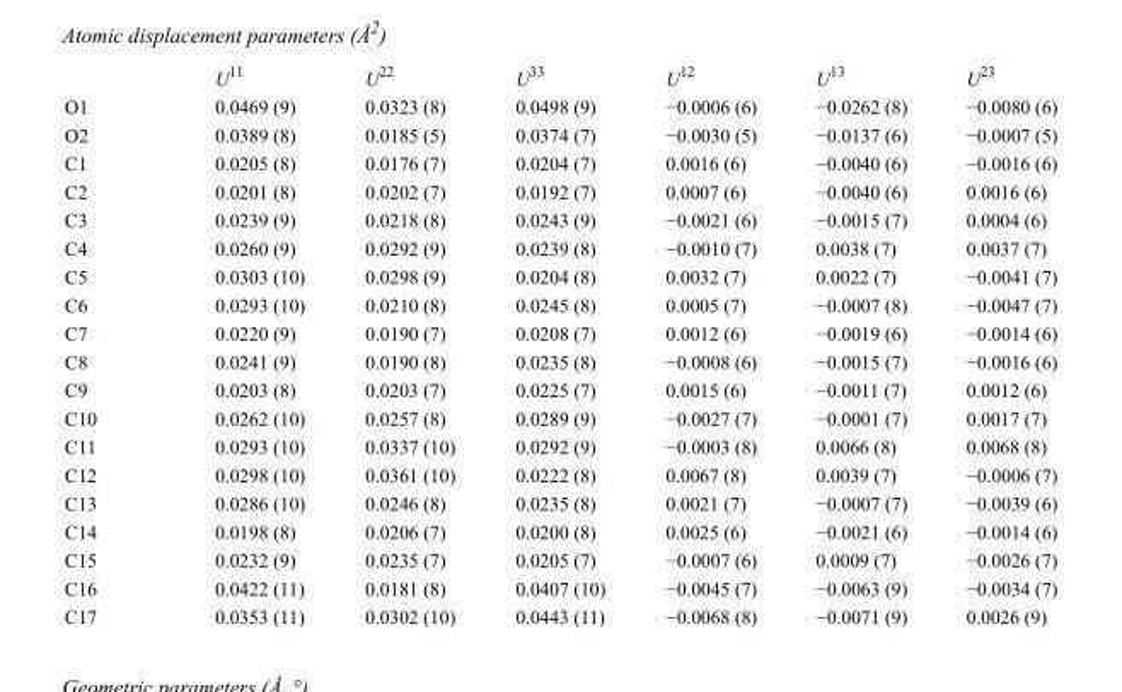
<table><thead><tr><td></td><td>U<sup>11</sup></td><td>U<sup>22</sup></td><td>U<sup>33</sup></td><td>U<sup>12</sup></td><td>U<sup>13</sup></td><td>U<sup>23</sup></td></tr></thead><tbody><tr><td>O1</td><td>0.0469 (9)</td><td>0.0323 (8)</td><td>0.0498 (9)</td><td>−0.0006 (6)</td><td>−0.0262 (8)</td><td>−0.0080 (6)</td></tr><tr><td>O2</td><td>0.0389 (8)</td><td>0.0185 (5)</td><td>0.0374 (7)</td><td>−0.0030 (5)</td><td>−0.0137 (6)</td><td>−0.0007 (5)</td></tr><tr><td>C1</td><td>0.0205 (8)</td><td>0.0176 (7)</td><td>0.0204 (7)</td><td>0.0016 (6)</td><td>−0.0040 (6)</td><td>−0.0016 (6)</td></tr><tr><td>C2</td><td>0.0201 (8)</td><td>0.0202 (7)</td><td>0.0192 (7)</td><td>0.0007 (6)</td><td>−0.0040 (6)</td><td>0.0016 (6)</td></tr><tr><td>C3</td><td>0.0239 (9)</td><td>0.0218 (8)</td><td>0.0243 (9)</td><td>−0.0021 (6)</td><td>−0.0015 (7)</td><td>0.0004 (6)</td></tr><tr><td>C4</td><td>0.0260 (9)</td><td>0.0292 (9)</td><td>0.0239 (8)</td><td>−0.0010 (7)</td><td>0.0038 (7)</td><td>0.0037 (7)</td></tr><tr><td>C5</td><td>0.0303 (10)</td><td>0.0298 (9)</td><td>0.0204 (8)</td><td>0.0032 (7)</td><td>0.0022 (7)</td><td>−0.0041 (7)</td></tr><tr><td>C6</td><td>0.0293 (10)</td><td>0.0210 (8)</td><td>0.0245 (8)</td><td>0.0005 (7)</td><td>−0.0007 (8)</td><td>−0.0047 (7)</td></tr><tr><td>C7</td><td>0.0220 (9)</td><td>0.0190 (7)</td><td>0.0208 (7)</td><td>0.0012 (6)</td><td>−0.0019 (6)</td><td>−0.0014 (6)</td></tr><tr><td>C8</td><td>0.0241 (9)</td><td>0.0190 (8)</td><td>0.0235 (8)</td><td>−0.0008 (6)</td><td>−0.0015 (7)</td><td>−0.0016 (6)</td></tr><tr><td>C9</td><td>0.0203 (8)</td><td>0.0203 (7)</td><td>0.0225 (7)</td><td>0.0015 (6)</td><td>−0.0011 (7)</td><td>0.0012 (6)</td></tr><tr><td>C10</td><td>0.0262 (10)</td><td>0.0257 (8)</td><td>0.0289 (9)</td><td>−0.0027 (7)</td><td>−0.0001 (7)</td><td>0.0017 (7)</td></tr><tr><td>C11</td><td>0.0293 (10)</td><td>0.0337 (10)</td><td>0.0292 (9)</td><td>−0.0003 (8)</td><td>0.0066 (8)</td><td>0.0068 (8)</td></tr><tr><td>C12</td><td>0.0298 (10)</td><td>0.0361 (10)</td><td>0.0222 (8)</td><td>0.0067 (8)</td><td>0.0039 (7)</td><td>−0.0006 (7)</td></tr><tr><td>C13</td><td>0.0286 (10)</td><td>0.0246 (8)</td><td>0.0235 (8)</td><td>0.0021 (7)</td><td>−0.0007 (7)</td><td>−0.0039 (6)</td></tr><tr><td>C14</td><td>0.0198 (8)</td><td>0.0206 (7)</td><td>0.0200 (8)</td><td>0.0025 (6)</td><td>−0.0021 (6)</td><td>−0.0014 (6)</td></tr><tr><td>C15</td><td>0.0232 (9)</td><td>0.0235 (7)</td><td>0.0205 (7)</td><td>−0.0007 (6)</td><td>0.0009 (7)</td><td>−0.0026 (7)</td></tr><tr><td>C16</td><td>0.0422 (11)</td><td>0.0181 (8)</td><td>0.0407 (10)</td><td>−0.0045 (7)</td><td>−0.0063 (9)</td><td>−0.0034 (7)</td></tr><tr><td>C17</td><td>0.0353 (11)</td><td>0.0302 (10)</td><td>0.0443 (11)</td><td>−0.0068 (8)</td><td>−0.0071 (9)</td><td>0.0026 (9)</td></tr></tbody></table>